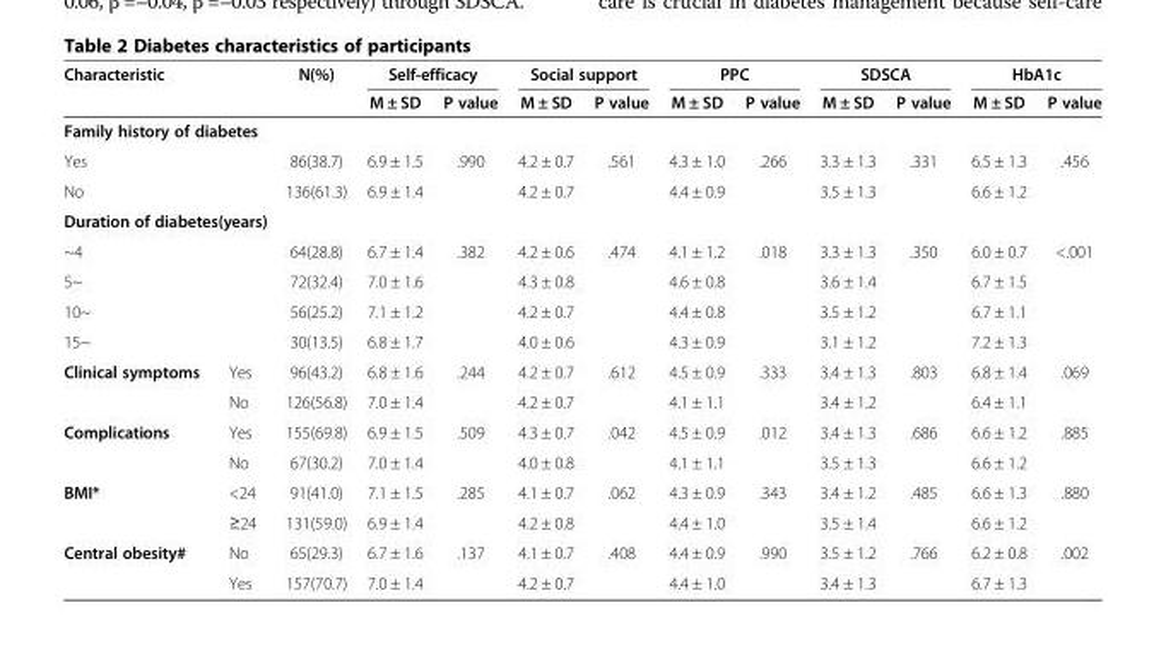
<table><thead><tr><td colspan="2">Characteristic</td><td rowspan="2">N(%)</td><td colspan="2">Self-efficacy</td><td colspan="2">Social support</td><td colspan="2">PPC</td><td colspan="2">SDSCA</td><td colspan="2">HbA1c</td></tr><tr><td></td><td></td><td>M ± SD</td><td>P value</td><td>M ± SD</td><td>P value</td><td>M ± SD</td><td>P value</td><td>M ± SD</td><td>P value</td><td>M ± SD</td><td>P value</td></tr></thead><tbody><tr><td colspan="13">Family history of diabetes</td></tr><tr><td colspan="2">Yes</td><td>86(38.7)</td><td>6.9 ± 1.5</td><td>.990</td><td>4.2 ± 0.7</td><td>.561</td><td>4.3 ± 1.0</td><td>.266</td><td>3.3 ± 1.3</td><td>.331</td><td>6.5 ± 1.3</td><td>.456</td></tr><tr><td colspan="2">No</td><td>136(61.3)</td><td>6.9 ± 1.4</td><td></td><td>4.2 ± 0.7</td><td></td><td>4.4 ± 0.9</td><td></td><td>3.5 ± 1.3</td><td></td><td>6.6 ± 1.2</td><td></td></tr><tr><td colspan="13">Duration of diabetes(years)</td></tr><tr><td colspan="2">~4</td><td>64(28.8)</td><td>6.7 ± 1.4</td><td>.382</td><td>4.2 ± 0.6</td><td>.474</td><td>4.1 ± 1.2</td><td>.018</td><td>3.3 ± 1.3</td><td>.350</td><td>6.0 ± 0.7</td><td>&lt;.001</td></tr><tr><td colspan="2">5~</td><td>72(32.4)</td><td>7.0 ± 1.6</td><td></td><td>4.3 ± 0.8</td><td></td><td>4.6 ± 0.8</td><td></td><td>3.6 ± 1.4</td><td></td><td>6.7 ± 1.5</td><td></td></tr><tr><td colspan="2">10~</td><td>56(25.2)</td><td>7.1 ± 1.2</td><td></td><td>4.2 ± 0.7</td><td></td><td>4.4 ± 0.8</td><td></td><td>3.5 ± 1.2</td><td></td><td>6.7 ± 1.1</td><td></td></tr><tr><td colspan="2">15~</td><td>30(13.5)</td><td>6.8 ± 1.7</td><td></td><td>4.0 ± 0.6</td><td></td><td>4.3 ± 0.9</td><td></td><td>3.1 ± 1.2</td><td></td><td>7.2 ± 1.3</td><td></td></tr><tr><td rowspan="2">Clinical symptoms</td><td>Yes</td><td>96(43.2)</td><td>6.8 ± 1.6</td><td>.244</td><td>4.2 ± 0.7</td><td>.612</td><td>4.5 ± 0.9</td><td>.333</td><td>3.4 ± 1.3</td><td>.803</td><td>6.8 ± 1.4</td><td>.069</td></tr><tr><td>No</td><td>126(56.8)</td><td>7.0 ± 1.4</td><td></td><td>4.2 ± 0.7</td><td></td><td>4.1 ± 1.1</td><td></td><td>3.4 ± 1.2</td><td></td><td>6.4 ± 1.1</td><td></td></tr><tr><td rowspan="2">Complications</td><td>Yes</td><td>155(69.8)</td><td>6.9 ± 1.5</td><td>.509</td><td>4.3 ± 0.7</td><td>.042</td><td>4.5 ± 0.9</td><td>.012</td><td>3.4 ± 1.3</td><td>.686</td><td>6.6 ± 1.2</td><td>.885</td></tr><tr><td>No</td><td>67(30.2)</td><td>7.0 ± 1.4</td><td></td><td>4.0 ± 0.8</td><td></td><td>4.1 ± 1.1</td><td></td><td>3.5 ± 1.3</td><td></td><td>6.6 ± 1.2</td><td></td></tr><tr><td rowspan="2">BMI*</td><td>&lt;24</td><td>91(41.0)</td><td>7.1 ± 1.5</td><td>.285</td><td>4.1 ± 0.7</td><td>.062</td><td>4.3 ± 0.9</td><td>.343</td><td>3.4 ± 1.2</td><td>.485</td><td>6.6 ± 1.3</td><td>.880</td></tr><tr><td>≥24</td><td>131(59.0)</td><td>6.9 ± 1.4</td><td></td><td>4.2 ± 0.8</td><td></td><td>4.4 ± 1.0</td><td></td><td>3.5 ± 1.4</td><td></td><td>6.6 ± 1.2</td><td></td></tr><tr><td rowspan="2">Central obesity#</td><td>No</td><td>65(29.3)</td><td>6.7 ± 1.6</td><td>.137</td><td>4.1 ± 0.7</td><td>.408</td><td>4.4 ± 0.9</td><td>.990</td><td>3.5 ± 1.2</td><td>.766</td><td>6.2 ± 0.8</td><td>.002</td></tr><tr><td>Yes</td><td>157(70.7)</td><td>7.0 ± 1.4</td><td></td><td>4.2 ± 0.7</td><td></td><td>4.4 ± 1.0</td><td></td><td>3.4 ± 1.3</td><td></td><td>6.7 ± 1.3</td><td></td></tr></tbody></table>